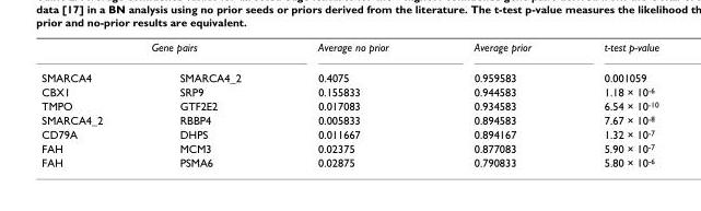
<table><tbody><tr><td colspan="2">Gene pairs</td><td>Average no prior</td><td>Average prior</td><td>t-test p-value</td></tr><tr><td>SMARCA4</td><td>SMARCA4_2</td><td>0.4075</td><td>0.959583</td><td>0.001059</td></tr><tr><td>CBX1</td><td>SRP9</td><td>0.155833</td><td>0.944583</td><td>1.18 × 10<sup>-6</sup></td></tr><tr><td>TMPO</td><td>GTF2E2</td><td>0.017083</td><td>0.934583</td><td>6.54 × 10<sup>-10</sup></td></tr><tr><td>SMARCA4_2</td><td>RBBP4</td><td>0.005833</td><td>0.894583</td><td>7.67 × 10<sup>-8</sup></td></tr><tr><td>CD79A</td><td>DHPS</td><td>0.011667</td><td>0.894167</td><td>1.32 × 10<sup>-7</sup></td></tr><tr><td>FAH</td><td>MCM3</td><td>0.02375</td><td>0.877083</td><td>5.90 × 10<sup>-7</sup></td></tr><tr><td>FAH</td><td>PSMA6</td><td>0.02875</td><td>0.790833</td><td>5.80 × 10<sup>-6</sup></td></tr></tbody></table>